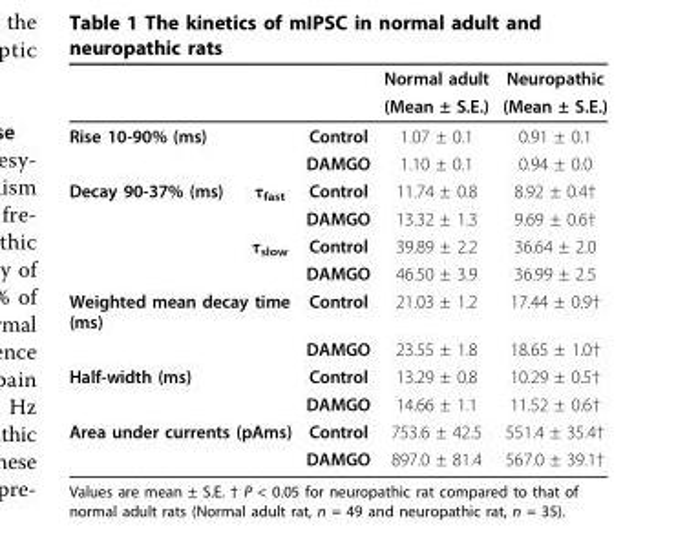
<table><thead><tr><td rowspan="2"></td><td rowspan="2"></td><td rowspan="2"></td><td rowspan="2">Normal adult (Mean ± S.E.)</td><td rowspan="2">Neuropathic (Mean ± S.E.)</td></tr><tr></tr></thead><tbody><tr><td colspan="2">Rise 10-90% (ms)</td><td>Control</td><td>1.07 ± 0.1</td><td>0.91 ± 0.1</td></tr><tr><td></td><td></td><td>DAMGO</td><td>1.10 ± 0.1</td><td>0.94 ± 0.0</td></tr><tr><td rowspan="4">Decay 90-37% (ms)</td><td>τ<sub>fast</sub></td><td>Control</td><td>11.74 ± 0.8</td><td>8.92 ± 0.4†</td></tr><tr><td></td><td>DAMGO</td><td>13.32 ± 1.3</td><td>9.69 ± 0.6†</td></tr><tr><td>τ<sub>slow</sub></td><td>Control</td><td>39.89 ± 2.2</td><td>36.64 ± 2.0</td></tr><tr><td></td><td>DAMGO</td><td>46.50 ± 3.9</td><td>36.99 ± 2.5</td></tr><tr><td colspan="2">Weighted mean decay time (ms)</td><td>Control</td><td>21.03 ± 1.2</td><td>17.44 ± 0.9†</td></tr><tr><td></td><td></td><td>DAMGO</td><td>23.55 ± 1.8</td><td>18.65 ± 1.0†</td></tr><tr><td colspan="2">Half-width (ms)</td><td>Control</td><td>13.29 ± 0.8</td><td>10.29 ± 0.5†</td></tr><tr><td></td><td></td><td>DAMGO</td><td>14.66 ± 1.1</td><td>11.52 ± 0.6†</td></tr><tr><td colspan="2">Area under currents (pAms)</td><td>Control</td><td>753.6 ± 42.5</td><td>551.4 ± 35.4†</td></tr><tr><td></td><td></td><td>DAMGO</td><td>897.0 ± 81.4</td><td>567.0 ± 39.1†</td></tr></tbody></table>